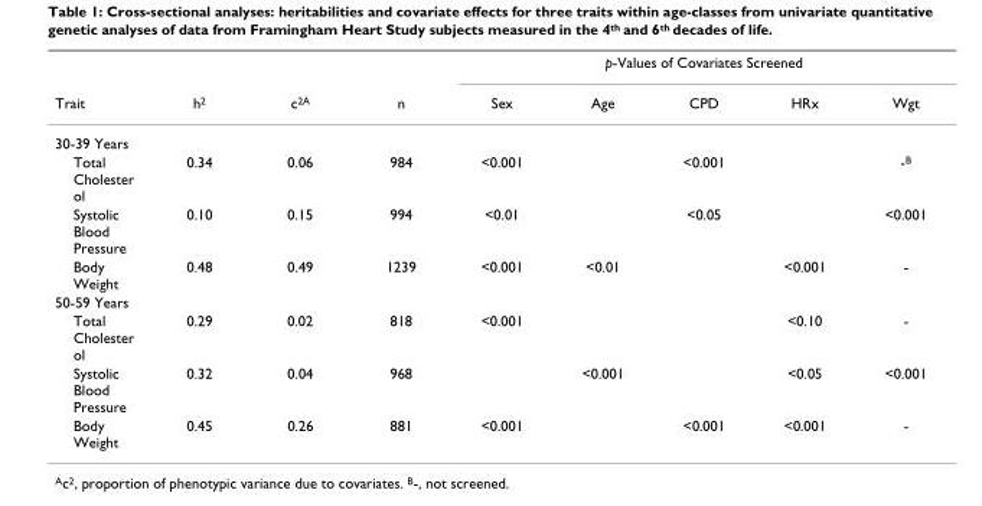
<table><thead><tr><td rowspan="2">Trait</td><td rowspan="2">h2</td><td rowspan="2">c2A</td><td rowspan="2">n</td><td colspan="5">p-Values of Covariates Screened</td></tr><tr><td>Sex</td><td>Age</td><td>CPD</td><td>HRx</td><td>Wgt</td></tr></thead><tbody><tr><td colspan="9">30-39 Years</td></tr><tr><td>Total Cholester ol</td><td>0.34</td><td>0.06</td><td>984</td><td>&lt;0.001</td><td></td><td>&lt;0.001</td><td></td><td>-B</td></tr><tr><td>Systolic Blood Pressure</td><td>0.10</td><td>0.15</td><td>994</td><td>&lt;0.01</td><td></td><td>&lt;0.05</td><td></td><td>&lt;0.001</td></tr><tr><td>Body Weight</td><td>0.48</td><td>0.49</td><td>1239</td><td>&lt;0.001</td><td>&lt;0.01</td><td></td><td>&lt;0.001</td><td>-</td></tr><tr><td colspan="9">50-59 Years</td></tr><tr><td>Total Cholester ol</td><td>0.29</td><td>0.02</td><td>818</td><td>&lt;0.001</td><td></td><td></td><td>&lt;0.10</td><td>-</td></tr><tr><td>Systolic Blood Pressure</td><td>0.32</td><td>0.04</td><td>968</td><td></td><td>&lt;0.001</td><td></td><td>&lt;0.05</td><td>&lt;0.001</td></tr><tr><td>Body Weight</td><td>0.45</td><td>0.26</td><td>881</td><td>&lt;0.001</td><td></td><td>&lt;0.001</td><td>&lt;0.001</td><td>-</td></tr></tbody></table>